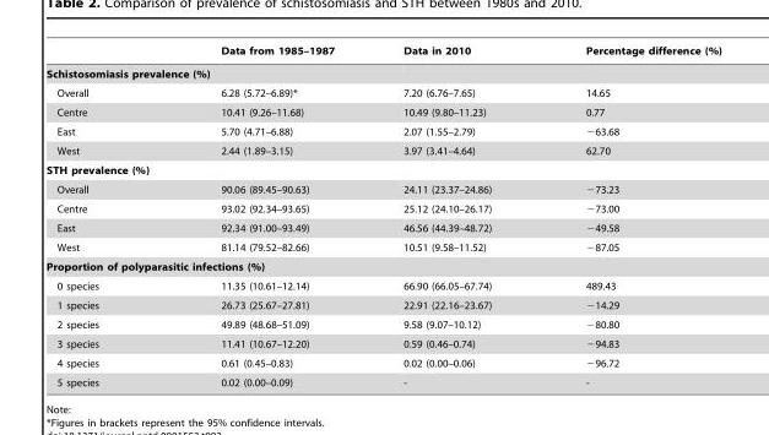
<table><thead><tr><td></td><td>Data from 1985–1987</td><td>Data in 2010</td><td>Percentage difference (%)</td></tr></thead><tbody><tr><td colspan="4">Schistosomiasis prevalence (%)</td></tr><tr><td>Overall</td><td>6.28 (5.72–6.89)*</td><td>7.20 (6.76–7.65)</td><td>14.65</td></tr><tr><td>Centre</td><td>10.41 (9.26–11.68)</td><td>10.49 (9.80–11.23)</td><td>0.77</td></tr><tr><td>East</td><td>5.70 (4.71–6.88)</td><td>2.07 (1.55–2.79)</td><td>−63.68</td></tr><tr><td>West</td><td>2.44 (1.89–3.15)</td><td>3.97 (3.41–4.64)</td><td>62.70</td></tr><tr><td colspan="4">STH prevalence (%)</td></tr><tr><td>Overall</td><td>90.06 (89.45–90.63)</td><td>24.11 (23.37–24.86)</td><td>−73.23</td></tr><tr><td>Centre</td><td>93.02 (92.34–93.65)</td><td>25.12 (24.10–26.17)</td><td>−73.00</td></tr><tr><td>East</td><td>92.34 (91.00–93.49)</td><td>46.56 (44.39–48.72)</td><td>−49.58</td></tr><tr><td>West</td><td>81.14 (79.52–82.66)</td><td>10.51 (9.58–11.52)</td><td>−87.05</td></tr><tr><td colspan="4">Proportion of polyparasitic infections (%)</td></tr><tr><td>0 species</td><td>11.35 (10.61–12.14)</td><td>66.90 (66.05–67.74)</td><td>489.43</td></tr><tr><td>1 species</td><td>26.73 (25.67–27.81)</td><td>22.91 (22.16–23.67)</td><td>−14.29</td></tr><tr><td>2 species</td><td>49.89 (48.68–51.09)</td><td>9.58 (9.07–10.12)</td><td>−80.80</td></tr><tr><td>3 species</td><td>11.41 (10.67–12.20)</td><td>0.59 (0.46–0.74)</td><td>−94.83</td></tr><tr><td>4 species</td><td>0.61 (0.45–0.83)</td><td>0.02 (0.00–0.06)</td><td>−96.72</td></tr><tr><td>5 species</td><td>0.02 (0.00–0.09)</td><td>-</td><td>-</td></tr></tbody></table>